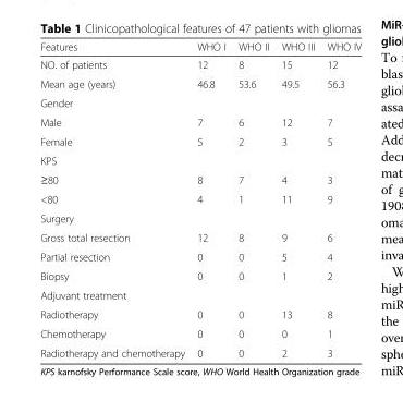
<table><thead><tr><td>Features</td><td>WHO I</td><td>WHO II</td><td>WHO III</td><td>WHO IV</td></tr></thead><tbody><tr><td>NO. of patients</td><td>12</td><td>8</td><td>15</td><td>12</td></tr><tr><td>Mean age (years)</td><td>46.8</td><td>53.6</td><td>49.5</td><td>56.3</td></tr><tr><td colspan="5">Gender</td></tr><tr><td>Male</td><td>7</td><td>6</td><td>12</td><td>7</td></tr><tr><td>Female</td><td>5</td><td>2</td><td>3</td><td>5</td></tr><tr><td colspan="5">KPS</td></tr><tr><td>≥80</td><td>8</td><td>7</td><td>4</td><td>3</td></tr><tr><td>&lt;80</td><td>4</td><td>1</td><td>11</td><td>9</td></tr><tr><td colspan="5">Surgery</td></tr><tr><td>Gross total resection</td><td>12</td><td>8</td><td>9</td><td>6</td></tr><tr><td>Partial resection</td><td>0</td><td>0</td><td>5</td><td>4</td></tr><tr><td>Biopsy</td><td>0</td><td>0</td><td>1</td><td>2</td></tr><tr><td colspan="5">Adjuvant treatment</td></tr><tr><td>Radiotherapy</td><td>0</td><td>0</td><td>13</td><td>8</td></tr><tr><td>Chemotherapy</td><td>0</td><td>0</td><td>0</td><td>1</td></tr><tr><td>Radiotherapy and chemotherapy</td><td>0</td><td>0</td><td>2</td><td>3</td></tr></tbody></table>